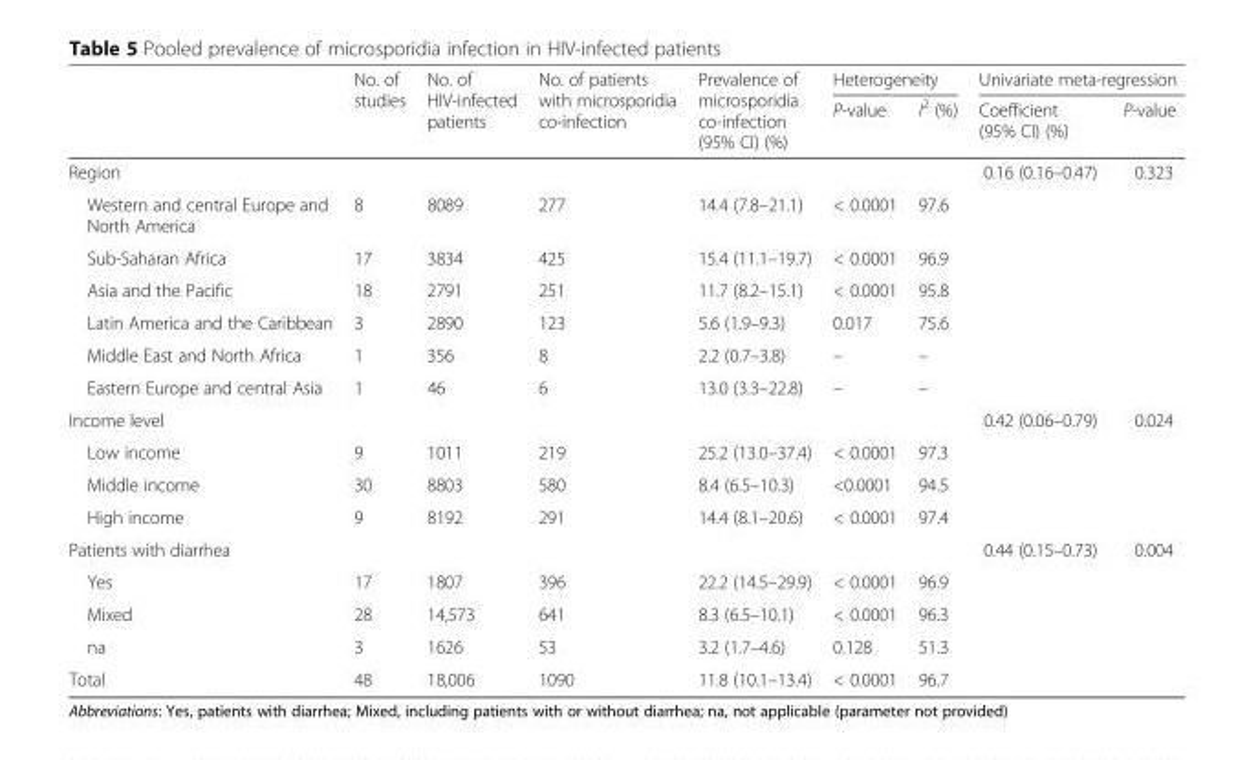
<table><thead><tr><td rowspan="2"></td><td rowspan="2">No. of studies</td><td rowspan="2">No. of HIV-infected patients</td><td rowspan="2">No. of patients with microsporidia co-infection</td><td rowspan="2">Prevalence of microsporidia co-infection (95% CI) (%)</td><td colspan="2">Heterogeneity</td><td colspan="2">Univariate meta-regression</td></tr><tr><td>P-value</td><td>I<sup>2</sup> (%)</td><td>Coefficient (95% CI) (%)</td><td>P-value</td></tr></thead><tbody><tr><td>Region</td><td></td><td></td><td></td><td></td><td></td><td></td><td>0.16 (0.16–0.47)</td><td>0.323</td></tr><tr><td>Western and central Europe and North America</td><td>8</td><td>8089</td><td>277</td><td>14.4 (7.8–21.1)</td><td>&lt; 0.0001</td><td>97.6</td><td></td><td></td></tr><tr><td>Sub-Saharan Africa</td><td>17</td><td>3834</td><td>425</td><td>15.4 (11.1–19.7)</td><td>&lt; 0.0001</td><td>96.9</td><td></td><td></td></tr><tr><td>Asia and the Pacific</td><td>18</td><td>2791</td><td>251</td><td>11.7 (8.2–15.1)</td><td>&lt; 0.0001</td><td>95.8</td><td></td><td></td></tr><tr><td>Latin America and the Caribbean</td><td>3</td><td>2890</td><td>123</td><td>5.6 (1.9–9.3)</td><td>0.017</td><td>75.6</td><td></td><td></td></tr><tr><td>Middle East and North Africa</td><td>1</td><td>356</td><td>8</td><td>2.2 (0.7–3.8)</td><td>–</td><td>–</td><td></td><td></td></tr><tr><td>Eastern Europe and central Asia</td><td>1</td><td>46</td><td>6</td><td>13.0 (3.3–22.8)</td><td>–</td><td>–</td><td></td><td></td></tr><tr><td>Income level</td><td></td><td></td><td></td><td></td><td></td><td></td><td>0.42 (0.06–0.79)</td><td>0.024</td></tr><tr><td>Low income</td><td>9</td><td>1011</td><td>219</td><td>25.2 (13.0–37.4)</td><td>&lt; 0.0001</td><td>97.3</td><td></td><td></td></tr><tr><td>Middle income</td><td>30</td><td>8803</td><td>580</td><td>8.4 (6.5–10.3)</td><td>&lt;0.0001</td><td>94.5</td><td></td><td></td></tr><tr><td>High income</td><td>9</td><td>8192</td><td>291</td><td>14.4 (8.1–20.6)</td><td>&lt; 0.0001</td><td>97.4</td><td></td><td></td></tr><tr><td>Patients with diarrhea</td><td></td><td></td><td></td><td></td><td></td><td></td><td>0.44 (0.15–0.73)</td><td>0.004</td></tr><tr><td>Yes</td><td>17</td><td>1807</td><td>396</td><td>22.2 (14.5–29.9)</td><td>&lt; 0.0001</td><td>96.9</td><td></td><td></td></tr><tr><td>Mixed</td><td>28</td><td>14,573</td><td>641</td><td>8.3 (6.5–10.1)</td><td>&lt; 0.0001</td><td>96.3</td><td></td><td></td></tr><tr><td>na</td><td>3</td><td>1626</td><td>53</td><td>3.2 (1.7–4.6)</td><td>0.128</td><td>51.3</td><td></td><td></td></tr><tr><td>Total</td><td>48</td><td>18,006</td><td>1090</td><td>11.8 (10.1–13.4)</td><td>&lt; 0.0001</td><td>96.7</td><td></td><td></td></tr></tbody></table>